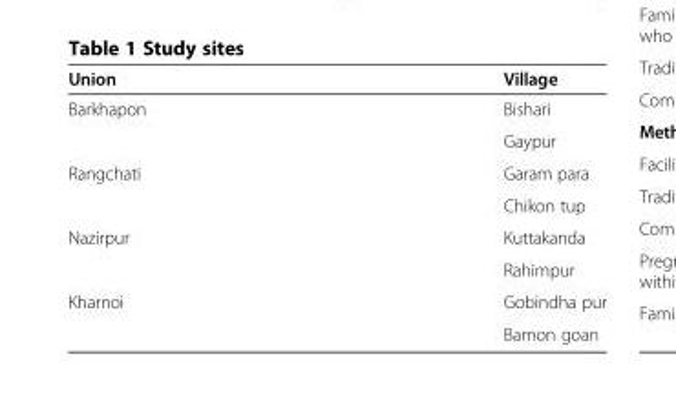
<table><thead><tr><td>Union</td><td>Village</td></tr></thead><tbody><tr><td rowspan="2">Barkhapon</td><td>Bishari</td></tr><tr><td>Gaypur</td></tr><tr><td rowspan="2">Rangchati</td><td>Garam para</td></tr><tr><td>Chikon tup</td></tr><tr><td rowspan="2">Nazirpur</td><td>Kuttakanda</td></tr><tr><td>Rahimpur</td></tr><tr><td rowspan="2">Kharnoi</td><td>Gobindha pur</td></tr><tr><td>Bamon goan</td></tr></tbody></table>